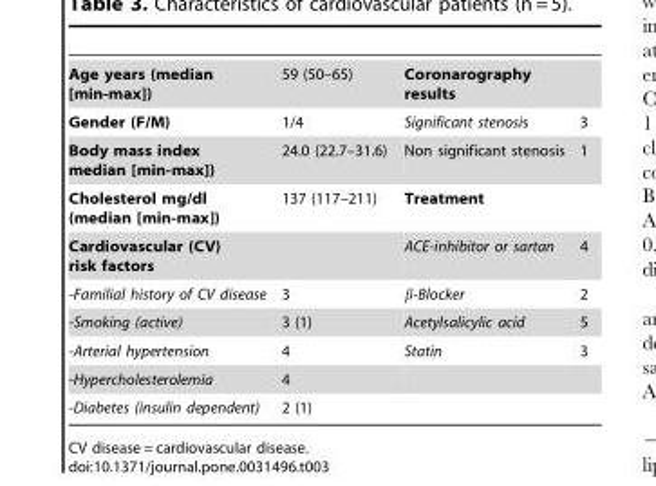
<table><tbody><tr><td>Age years (median [min-max])</td><td>59 (50–65)</td><td>Coronarography results</td><td></td></tr><tr><td>Gender (F/M)</td><td>1/4</td><td>Significant stenosis</td><td>3</td></tr><tr><td>Body mass index median [min-max])</td><td>24.0 (22.7–31.6)</td><td>Non significant stenosis</td><td>1</td></tr><tr><td>Cholesterol mg/dl (median [min-max])</td><td>137 (117–211)</td><td>Treatment</td><td></td></tr><tr><td>Cardiovascular (CV) risk factors</td><td></td><td>ACE-inhibitor or sartan</td><td>4</td></tr><tr><td>-Familial history of CV disease</td><td>3</td><td>β-Blocker</td><td>2</td></tr><tr><td>-Smoking (active)</td><td>3 (1)</td><td>Acetylsalicylic acid</td><td>5</td></tr><tr><td>-Arterial hypertension</td><td>4</td><td>Statin</td><td>3</td></tr><tr><td>-Hypercholesterolemia</td><td>4</td><td></td><td></td></tr><tr><td>-Diabetes (insulin dependent)</td><td>2 (1)</td><td></td><td></td></tr></tbody></table>